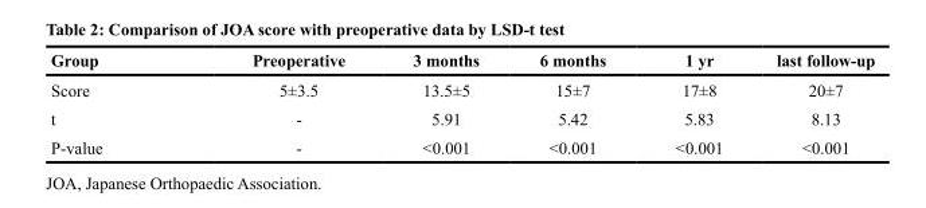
<table><thead><tr><td>Group</td><td>Preoperative</td><td>3 months</td><td>6 months</td><td>1 yr</td><td>last follow-up</td></tr></thead><tbody><tr><td>Score</td><td>5±3.5</td><td>13.5±5</td><td>15±7</td><td>17±8</td><td>20±7</td></tr><tr><td>t</td><td>-</td><td>5.91</td><td>5.42</td><td>5.83</td><td>8.13</td></tr><tr><td>P-value</td><td>-</td><td>&lt;0.001</td><td>&lt;0.001</td><td>&lt;0.001</td><td>&lt;0.001</td></tr></tbody></table>